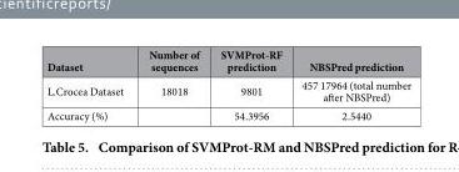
<table><thead><tr><td>Dataset</td><td>Number of sequences</td><td>SVMProt-RF prediction</td><td>NBSPred prediction</td></tr></thead><tbody><tr><td>L.Crocea Dataset</td><td>18018</td><td>9801</td><td>457 17964 (total number after NBSPred)</td></tr><tr><td>Accuracy (%)</td><td></td><td>54.3956</td><td>2.5440</td></tr></tbody></table>